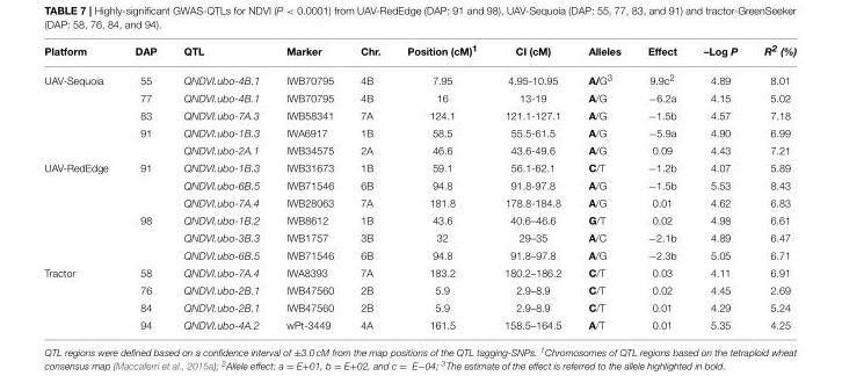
<table><thead><tr><td>Platform</td><td>DAP</td><td>QTL</td><td>Marker</td><td>Chr.</td><td>Position (cM)<sup>1</sup></td><td>CI (cM)</td><td>Alleles</td><td>Effect</td><td>–Log P</td><td>R2 (%)</td></tr></thead><tbody><tr><td rowspan="5">UAV-Sequoia</td><td>55</td><td>QNDVI.ubo-4B.1</td><td>IWB70795</td><td>4B</td><td>7.95</td><td>4.95-10.95</td><td>A/G<sup>3</sup></td><td>9.9c<sup>2</sup></td><td>4.89</td><td>8.01</td></tr><tr><td>77</td><td>QNDVI.ubo-4B.1</td><td>IWB70795</td><td>4B</td><td>16</td><td>13-19</td><td>A/G</td><td>−6.2a</td><td>4.15</td><td>5.02</td></tr><tr><td>83</td><td>QNDVI.ubo-7A.3</td><td>IWB58341</td><td>7A</td><td>124.1</td><td>121.1-127.1</td><td>A/G</td><td>−1.5b</td><td>4.57</td><td>7.18</td></tr><tr><td>91</td><td>QNDVI.ubo-1B.3</td><td>IWA6917</td><td>1B</td><td>58.5</td><td>55.5-61.5</td><td>A/G</td><td>−5.9a</td><td>4.90</td><td>6.99</td></tr><tr><td></td><td>QNDVI.ubo-2A.1</td><td>IWB34575</td><td>2A</td><td>46.6</td><td>43.6-49.6</td><td>A/G</td><td>0.09</td><td>4.43</td><td>7.21</td></tr><tr><td rowspan="6">UAV-RedEdge</td><td>91</td><td>QNDVI.ubo-1B.3</td><td>IWB31673</td><td>1B</td><td>59.1</td><td>56.1-62.1</td><td>C/T</td><td>−1.2b</td><td>4.07</td><td>5.89</td></tr><tr><td></td><td>QNDVI.ubo-6B.5</td><td>IWB71546</td><td>6B</td><td>94.8</td><td>91.8-97.8</td><td>A/G</td><td>−1.5b</td><td>5.53</td><td>8.43</td></tr><tr><td></td><td>QNDVI.ubo-7A.4</td><td>IWB28063</td><td>7A</td><td>181.8</td><td>178.8-184.8</td><td>A/G</td><td>0.01</td><td>4.62</td><td>6.83</td></tr><tr><td>98</td><td>QNDVI.ubo-1B.2</td><td>IWB8612</td><td>1B</td><td>43.6</td><td>40.6–46.6</td><td>G/T</td><td>0.02</td><td>4.98</td><td>6.61</td></tr><tr><td></td><td>QNDVI.ubo-3B.3</td><td>IWB1757</td><td>3B</td><td>32</td><td>29–35</td><td>A/C</td><td>−2.1b</td><td>4.89</td><td>6.47</td></tr><tr><td></td><td>QNDVI.ubo-6B.5</td><td>IWB71546</td><td>6B</td><td>94.8</td><td>91.8–97.8</td><td>A/G</td><td>−2.3b</td><td>5.05</td><td>6.71</td></tr><tr><td rowspan="4">Tractor</td><td>58</td><td>QNDVI.ubo-7A.4</td><td>IWA8393</td><td>7A</td><td>183.2</td><td>180.2–186.2</td><td>C/T</td><td>0.03</td><td>4.11</td><td>6.91</td></tr><tr><td>76</td><td>QNDVI.ubo-2B.1</td><td>IWB47560</td><td>2B</td><td>5.9</td><td>2.9–8.9</td><td>C/T</td><td>0.02</td><td>4.45</td><td>2.69</td></tr><tr><td>84</td><td>QNDVI.ubo-2B.1</td><td>IWB47560</td><td>2B</td><td>5.9</td><td>2.9–8.9</td><td>C/T</td><td>0.01</td><td>4.29</td><td>5.24</td></tr><tr><td>94</td><td>QNDVI.ubo-4A.2</td><td>wPt-3449</td><td>4A</td><td>161.5</td><td>158.5–164.5</td><td>A/T</td><td>0.01</td><td>5.35</td><td>4.25</td></tr></tbody></table>